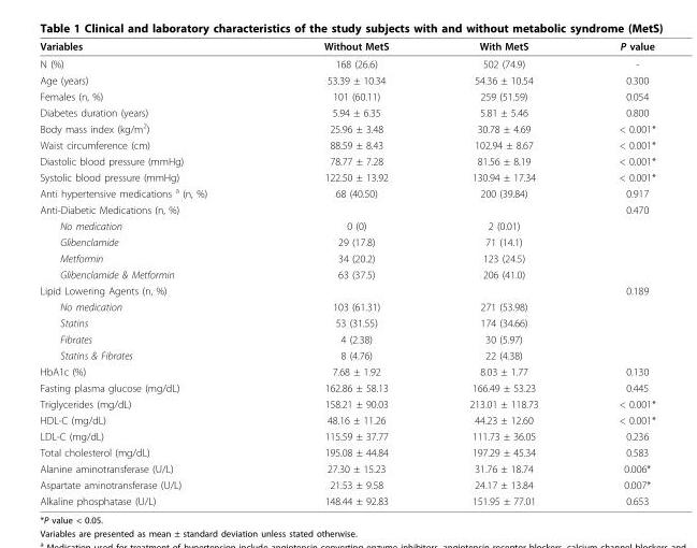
<table><thead><tr><td>Variables</td><td>Without MetS</td><td>With MetS</td><td>P value</td></tr></thead><tbody><tr><td>N (%)</td><td>168 (26.6)</td><td>502 (74.9)</td><td>-</td></tr><tr><td>Age (years)</td><td>53.39 ± 10.34</td><td>54.36 ± 10.54</td><td>0.300</td></tr><tr><td>Females (n, %)</td><td>101 (60.11)</td><td>259 (51.59)</td><td>0.054</td></tr><tr><td>Diabetes duration (years)</td><td>5.94 ± 6.35</td><td>5.81 ± 5.46</td><td>0.800</td></tr><tr><td>Body mass index (kg/m<sup>2</sup>)</td><td>25.96 ± 3.48</td><td>30.78 ± 4.69</td><td>&lt; 0.001*</td></tr><tr><td>Waist circumference (cm)</td><td>88.59 ± 8.43</td><td>102.94 ± 8.67</td><td>&lt; 0.001*</td></tr><tr><td>Diastolic blood pressure (mmHg)</td><td>78.77 ± 7.28</td><td>81.56 ± 8.19</td><td>&lt; 0.001*</td></tr><tr><td>Systolic blood pressure (mmHg)</td><td>122.50 ± 13.92</td><td>130.94 ± 17.34</td><td>&lt; 0.001*</td></tr><tr><td>Anti hypertensive medications <sup>a</sup> (n, %)</td><td>68 (40.50)</td><td>200 (39.84)</td><td>0.917</td></tr><tr><td>Anti-Diabetic Medications (n, %)</td><td></td><td></td><td>0.470</td></tr><tr><td>No medication</td><td>0 (0)</td><td>2 (0.01)</td><td></td></tr><tr><td>Glibenclamide</td><td>29 (17.8)</td><td>71 (14.1)</td><td></td></tr><tr><td>Metformin</td><td>34 (20.2)</td><td>123 (24.5)</td><td></td></tr><tr><td>Glibenclamide &amp; Metformin</td><td>63 (37.5)</td><td>206 (41.0)</td><td></td></tr><tr><td>Lipid Lowering Agents (n, %)</td><td></td><td></td><td>0.189</td></tr><tr><td>No medication</td><td>103 (61.31)</td><td>271 (53.98)</td><td></td></tr><tr><td>Statins</td><td>53 (31.55)</td><td>174 (34.66)</td><td></td></tr><tr><td>Fibrates</td><td>4 (2.38)</td><td>30 (5.97)</td><td></td></tr><tr><td>Statins &amp; Fibrates</td><td>8 (4.76)</td><td>22 (4.38)</td><td></td></tr><tr><td>HbA1c (%)</td><td>7.68 ± 1.92</td><td>8.03 ± 1.77</td><td>0.130</td></tr><tr><td>Fasting plasma glucose (mg/dL)</td><td>162.86 ± 58.13</td><td>166.49 ± 53.23</td><td>0.445</td></tr><tr><td>Triglycerides (mg/dL)</td><td>158.21 ± 90.03</td><td>213.01 ± 118.73</td><td>&lt; 0.001*</td></tr><tr><td>HDL-C (mg/dL)</td><td>48.16 ± 11.26</td><td>44.23 ± 12.60</td><td>&lt; 0.001*</td></tr><tr><td>LDL-C (mg/dL)</td><td>115.59 ± 37.77</td><td>111.73 ± 36.05</td><td>0.236</td></tr><tr><td>Total cholesterol (mg/dL)</td><td>195.08 ± 44.84</td><td>197.29 ± 45.34</td><td>0.583</td></tr><tr><td>Alanine aminotransferase (U/L)</td><td>27.30 ± 15.23</td><td>31.76 ± 18.74</td><td>0.006*</td></tr><tr><td>Aspartate aminotransferase (U/L)</td><td>21.53 ± 9.58</td><td>24.17 ± 13.84</td><td>0.007*</td></tr><tr><td>Alkaline phosphatase (U/L)</td><td>148.44 ± 92.83</td><td>151.95 ± 77.01</td><td>0.653</td></tr></tbody></table>